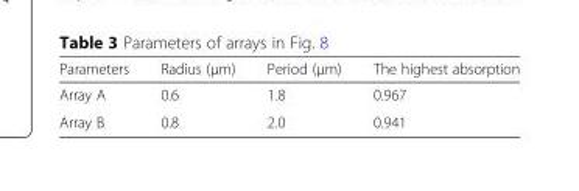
<table><thead><tr><td>Parameters</td><td>Radius (μm)</td><td>Period (μm)</td><td>The highest absorption</td></tr></thead><tbody><tr><td>Array A</td><td>0.6</td><td>1.8</td><td>0.967</td></tr><tr><td>Array B</td><td>0.8</td><td>2.0</td><td>0.941</td></tr></tbody></table>